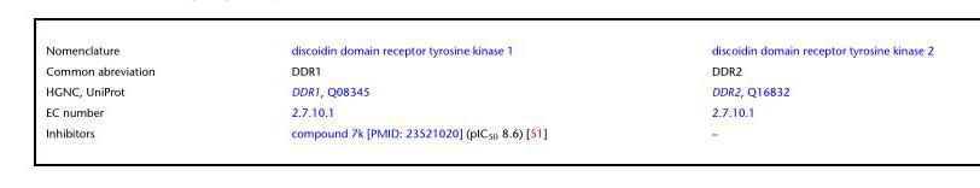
<table><tbody><tr><td>Nomenclature</td><td>discoidin domain receptor tyrosine kinase 1</td><td>discoidin domain receptor tyrosine kinase 2</td></tr><tr><td>Common abreviation</td><td>DDR1</td><td>DDR2</td></tr><tr><td>HGNC, UniProt</td><td>DDR1, Q08345</td><td>DDR2, Q16832</td></tr><tr><td>EC number</td><td>2.7.10.1</td><td>2.7.10.1</td></tr><tr><td>Inhibitors</td><td>compound 7k [PMID: 23521020] (pIC<sub>50</sub> 8.6) [51]</td><td>–</td></tr></tbody></table>